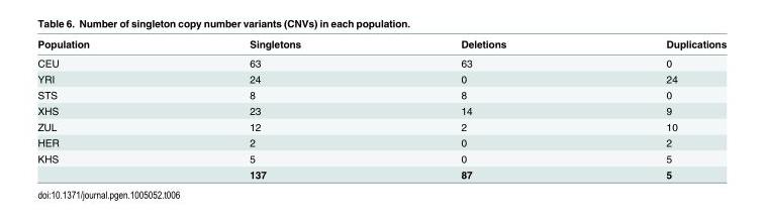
<table><thead><tr><td>Population</td><td>Singletons</td><td>Deletions</td><td>Duplications</td></tr></thead><tbody><tr><td>CEU</td><td>63</td><td>63</td><td>0</td></tr><tr><td>YRI</td><td>24</td><td>0</td><td>24</td></tr><tr><td>STS</td><td>8</td><td>8</td><td>0</td></tr><tr><td>XHS</td><td>23</td><td>14</td><td>9</td></tr><tr><td>ZUL</td><td>12</td><td>2</td><td>10</td></tr><tr><td>HER</td><td>2</td><td>0</td><td>2</td></tr><tr><td rowspan="2">KHS</td><td>5</td><td>0</td><td>5</td></tr><tr><td>137</td><td>87</td><td>5</td></tr></tbody></table>